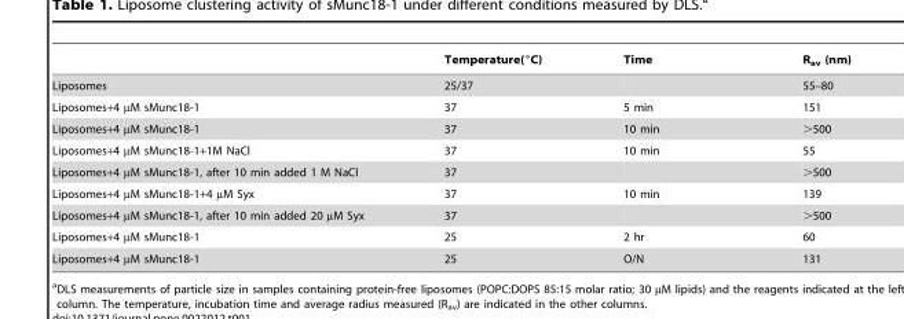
<table><thead><tr><td></td><td>Temperature(°C)</td><td>Time</td><td>R<sub>av</sub> (nm)</td></tr></thead><tbody><tr><td>Liposomes</td><td>25/37</td><td></td><td>55–80</td></tr><tr><td>Liposomes+4 µM sMunc18-1</td><td>37</td><td>5 min</td><td>151</td></tr><tr><td>Liposomes+4 µM sMunc18-1</td><td>37</td><td>10 min</td><td>&gt;500</td></tr><tr><td>Liposomes+4 µM sMunc18-1+1M NaCl</td><td>37</td><td>10 min</td><td>55</td></tr><tr><td>Liposomes+4 µM sMunc18-1, after 10 min added 1 M NaCl</td><td>37</td><td></td><td>&gt;500</td></tr><tr><td>Liposomes+4 µM sMunc18-1+4 µM Syx</td><td>37</td><td>10 min</td><td>139</td></tr><tr><td>Liposomes+4 µM sMunc18-1, after 10 min added 20 µM Syx</td><td>37</td><td></td><td>&gt;500</td></tr><tr><td>Liposomes+4 µM sMunc18-1</td><td>25</td><td>2 hr</td><td>60</td></tr><tr><td>Liposomes+4 µM sMunc18-1</td><td>25</td><td>O/N</td><td>131</td></tr></tbody></table>